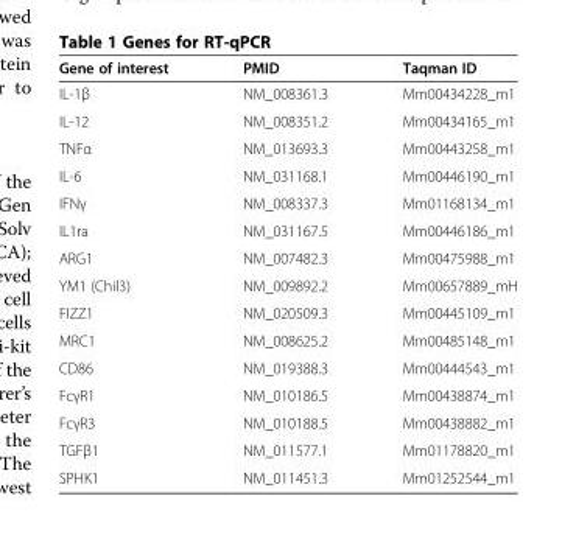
<table><thead><tr><td>Gene of interest</td><td>PMID</td><td>Taqman ID</td></tr></thead><tbody><tr><td>IL-1β</td><td>NM_008361.3</td><td>Mm00434228_m1</td></tr><tr><td>IL-12</td><td>NM_008351.2</td><td>Mm00434165_m1</td></tr><tr><td>TNFα</td><td>NM_013693.3</td><td>Mm00443258_m1</td></tr><tr><td>IL-6</td><td>NM_031168.1</td><td>Mm00446190_m1</td></tr><tr><td>IFNγ</td><td>NM_008337.3</td><td>Mm01168134_m1</td></tr><tr><td>IL1ra</td><td>NM_031167.5</td><td>Mm00446186_m1</td></tr><tr><td>ARG1</td><td>NM_007482.3</td><td>Mm00475988_m1</td></tr><tr><td>YM1 (Chil3)</td><td>NM_009892.2</td><td>Mm00657889_mH</td></tr><tr><td>FIZZ1</td><td>NM_020509.3</td><td>Mm00445109_m1</td></tr><tr><td>MRC1</td><td>NM_008625.2</td><td>Mm00485148_m1</td></tr><tr><td>CD86</td><td>NM_019388.3</td><td>Mm00444543_m1</td></tr><tr><td>FcγR1</td><td>NM_010186.5</td><td>Mm00438874_m1</td></tr><tr><td>FcγR3</td><td>NM_010188.5</td><td>Mm00438882_m1</td></tr><tr><td>TGFβ1</td><td>NM_011577.1</td><td>Mm01178820_m1</td></tr><tr><td>SPHK1</td><td>NM_011451.3</td><td>Mm01252544_m1</td></tr></tbody></table>